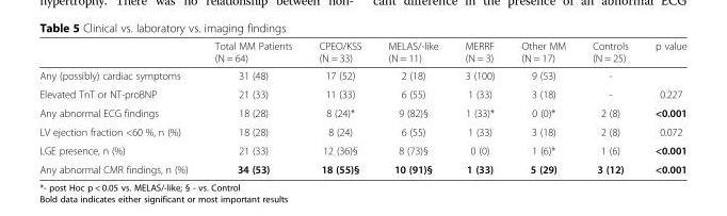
<table><thead><tr><td></td><td>Total MM Patients (N = 64)</td><td>CPEO/KSS (N = 33)</td><td>MELAS/-like (N = 11)</td><td>MERRF (N = 3)</td><td>Other MM (N = 17)</td><td>Controls (N = 25)</td><td>p value</td></tr></thead><tbody><tr><td>Any (possibly) cardiac symptoms</td><td>31 (48)</td><td>17 (52)</td><td>2 (18)</td><td>3 (100)</td><td>9 (53)</td><td>-</td><td></td></tr><tr><td>Elevated TnT or NT-proBNP</td><td>21 (33)</td><td>11 (33)</td><td>6 (55)</td><td>1 (33)</td><td>3 (18)</td><td>-</td><td>0.227</td></tr><tr><td>Any abnormal ECG findings</td><td>18 (28)</td><td>8 (24)*</td><td>9 (82)§</td><td>1 (33)*</td><td>0 (0)*</td><td>2 (8)</td><td>&lt;0.001</td></tr><tr><td>LV ejection fraction &lt;60 %, n (%)</td><td>18 (28)</td><td>8 (24)</td><td>6 (55)</td><td>1 (33)</td><td>3 (18)</td><td>2 (8)</td><td>0.072</td></tr><tr><td>LGE presence, n (%)</td><td>21 (33)</td><td>12 (36)§</td><td>8 (73)§</td><td>0 (0)</td><td>1 (6)*</td><td>1 (6)</td><td>&lt;0.001</td></tr><tr><td>Any abnormal CMR findings, n (%)</td><td>34 (53)</td><td>18 (55)§</td><td>10 (91)§</td><td>1 (33)</td><td>5 (29)</td><td>3 (12)</td><td>&lt;0.001</td></tr></tbody></table>